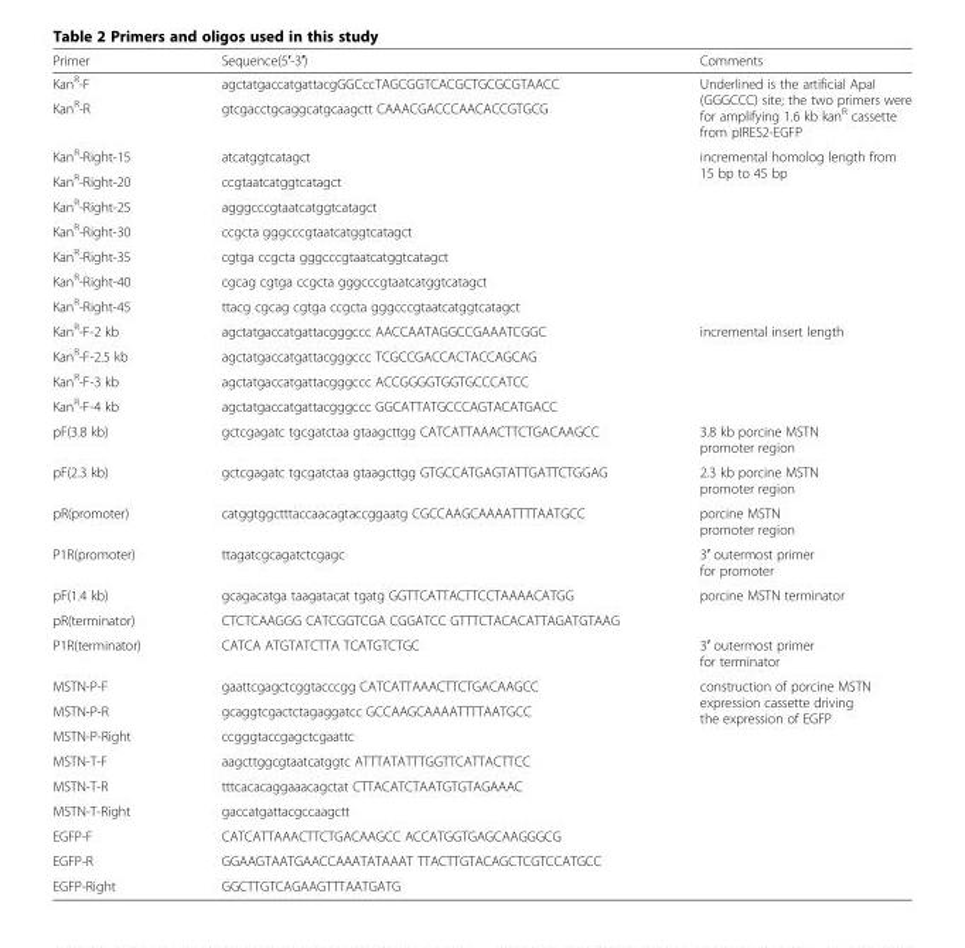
<table><thead><tr><td>Primer</td><td>Sequence(5′-3′)</td><td>Comments</td></tr></thead><tbody><tr><td>Kan<sup>R</sup>-F</td><td>agctatgaccatgattacgGGCccTAGCGGTCACGCTGCGCGTAACC</td><td rowspan="2">Underlined is the artificial ApaI (GGGCCC) site; the two primers were for amplifying 1.6 kb kan<sup>R</sup> cassette from pIRES2-EGFP</td></tr><tr><td>Kan<sup>R</sup>-R</td><td>gtcgacctgcaggcatgcaagctt CAAACGACCCAACACCGTGCG</td></tr><tr><td>Kan<sup>R</sup>-Right-15</td><td>atcatggtcatagct</td><td rowspan="7">incremental homolog length from 15 bp to 45 bp</td></tr><tr><td>Kan<sup>R</sup>-Right-20</td><td>ccgtaatcatggtcatagct</td></tr><tr><td>Kan<sup>R</sup>-Right-25</td><td>agggcccgtaatcatggtcatagct</td></tr><tr><td>Kan<sup>R</sup>-Right-30</td><td>ccgcta gggcccgtaatcatggtcatagct</td></tr><tr><td>Kan<sup>R</sup>-Right-35</td><td>cgtga ccgcta gggcccgtaatcatggtcatagct</td></tr><tr><td>Kan<sup>R</sup>-Right-40</td><td>cgcag cgtga ccgcta gggcccgtaatcatggtcatagct</td></tr><tr><td>Kan<sup>R</sup>-Right-45</td><td>ttacg cgcag cgtga ccgcta gggcccgtaatcatggtcatagct</td></tr><tr><td>Kan<sup>R</sup>-F-2 kb</td><td>agctatgaccatgattacgggccc AACCAATAGGCCGAAATCGGC</td><td rowspan="4">incremental insert length</td></tr><tr><td>Kan<sup>R</sup>-F-2.5 kb</td><td>agctatgaccatgattacgggccc TCGCCGACCACTACCAGCAG</td></tr><tr><td>Kan<sup>R</sup>-F-3 kb</td><td>agctatgaccatgattacgggccc ACCGGGGTGGTGCCCATCC</td></tr><tr><td>Kan<sup>R</sup>-F-4 kb</td><td>agctatgaccatgattacgggccc GGCATTATGCCCAGTACATGACC</td></tr><tr><td>pF(3.8 kb)</td><td>gctcgagatc tgcgatctaa gtaagcttgg CATCATTAAACTTCTGACAAGCC</td><td>3.8 kb porcine MSTN promoter region</td></tr><tr><td>pF(2.3 kb)</td><td>gctcgagatc tgcgatctaa gtaagcttgg GTGCCATGAGTATTGATTCTGGAG</td><td>2.3 kb porcine MSTN promoter region</td></tr><tr><td>pR(promoter)</td><td>catggtggctttaccaacagtaccggaatg CGCCAAGCAAAATTTTAATGCC</td><td>porcine MSTN promoter region</td></tr><tr><td>P1R(promoter)</td><td>ttagatcgcagatctcgagc</td><td>3′ outermost primer for promoter</td></tr><tr><td>pF(1.4 kb)</td><td>gcagacatga taagatacat tgatg GGTTCATTACTTCCTAAAACATGG</td><td rowspan="2">porcine MSTN terminator</td></tr><tr><td>pR(terminator)</td><td>CTCTCAAGGG CATCGGTCGA CGGATCC GTTTCTACACATTAGATGTAAG</td></tr><tr><td>P1R(terminator)</td><td>CATCA ATGTATCTTA TCATGTCTGC</td><td>3′ outermost primer for terminator</td></tr><tr><td>MSTN-P-F</td><td>gaattcgagctcggtacccgg CATCATTAAACTTCTGACAAGCC</td><td rowspan="8">construction of porcine MSTN expression cassette driving the expression of EGFP</td></tr><tr><td>MSTN-P-R</td><td>gcaggtcgactctagaggatcc GCCAAGCAAAATTTTAATGCC</td></tr><tr><td>MSTN-P-Right</td><td>ccgggtaccgagctcgaattc</td></tr><tr><td>MSTN-T-F</td><td>aagcttggcgtaatcatggtc ATTTATATTTGGTTCATTACTTCC</td></tr><tr><td>MSTN-T-R</td><td>tttcacacaggaaacagctat CTTACATCTAATGTGTAGAAAC</td></tr><tr><td>MSTN-T-Right</td><td>gaccatgattacgccaagctt</td></tr><tr><td>EGFP-F</td><td>CATCATTAAACTTCTGACAAGCC ACCATGGTGAGCAAGGGCG</td></tr><tr><td>EGFP-R</td><td>GGAAGTAATGAACCAAATATAAAT TTACTTGTACAGCTCGTCCATGCC</td></tr><tr><td>EGFP-Right</td><td>GGCTTGTCAGAAGTTTAATGATG</td><td></td></tr></tbody></table>